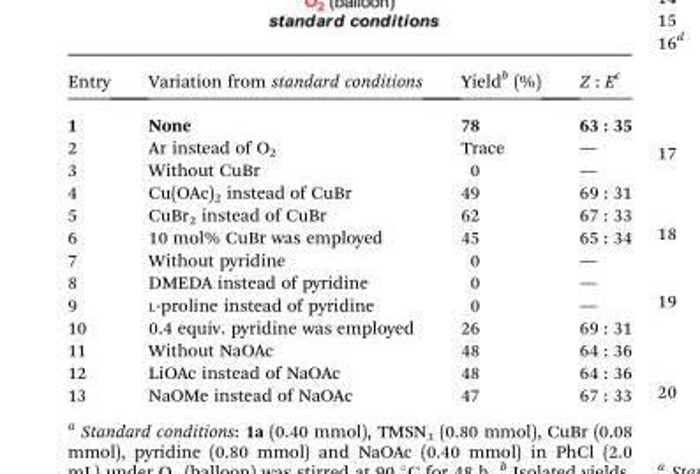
<table><thead><tr><td>Entry</td><td>Variation from standard conditions</td><td>Yield<sup>b</sup> (%)</td><td>Z : E<sup>c</sup></td></tr></thead><tbody><tr><td>1</td><td>None</td><td>78</td><td>63 : 35</td></tr><tr><td>2</td><td>Ar instead of O<sub>2</sub></td><td>Trace</td><td>—</td></tr><tr><td>3</td><td>Without CuBr</td><td>0</td><td>—</td></tr><tr><td>4</td><td>Cu(OAc)<sub>2</sub> instead of CuBr</td><td>49</td><td>69 : 31</td></tr><tr><td>5</td><td>CuBr<sub>2</sub> instead of CuBr</td><td>62</td><td>67 : 33</td></tr><tr><td>6</td><td>10 mol% CuBr was employed</td><td>45</td><td>65 : 34</td></tr><tr><td>7</td><td>Without pyridine</td><td>0</td><td>—</td></tr><tr><td>8</td><td>DMEDA instead of pyridine</td><td>0</td><td>—</td></tr><tr><td>9</td><td>L-proline instead of pyridine</td><td>0</td><td>—</td></tr><tr><td>10</td><td>0.4 equiv. pyridine was employed</td><td>26</td><td>69 : 31</td></tr><tr><td>11</td><td>Without NaOAc</td><td>48</td><td>64 : 36</td></tr><tr><td>12</td><td>LiOAc instead of NaOAc</td><td>48</td><td>64 : 36</td></tr><tr><td>13</td><td>NaOMe instead of NaOAc</td><td>47</td><td>67 : 33</td></tr></tbody></table>